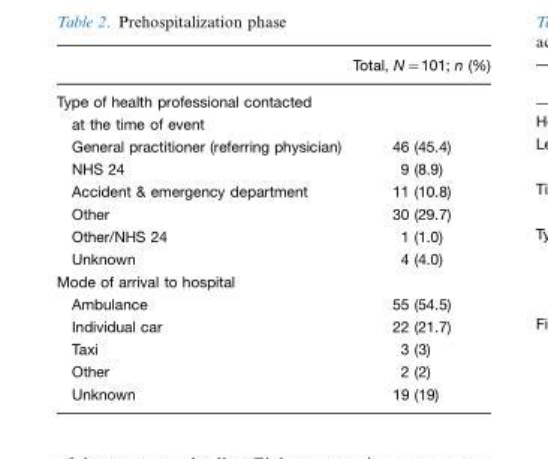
<table><thead><tr><td></td><td>Total, N=101; n (%)</td></tr></thead><tbody><tr><td colspan="2">Type of health professional contacted at the time of event</td></tr><tr><td>General practitioner (referring physician)</td><td>46 (45.4)</td></tr><tr><td>NHS 24</td><td>9 (8.9)</td></tr><tr><td>Accident &amp; emergency department</td><td>11 (10.8)</td></tr><tr><td>Other</td><td>30 (29.7)</td></tr><tr><td>Other/NHS 24</td><td>1 (1.0)</td></tr><tr><td>Unknown</td><td>4 (4.0)</td></tr><tr><td colspan="2">Mode of arrival to hospital</td></tr><tr><td>Ambulance</td><td>55 (54.5)</td></tr><tr><td>Individual car</td><td>22 (21.7)</td></tr><tr><td>Taxi</td><td>3 (3)</td></tr><tr><td>Other</td><td>2 (2)</td></tr><tr><td>Unknown</td><td>19 (19)</td></tr></tbody></table>